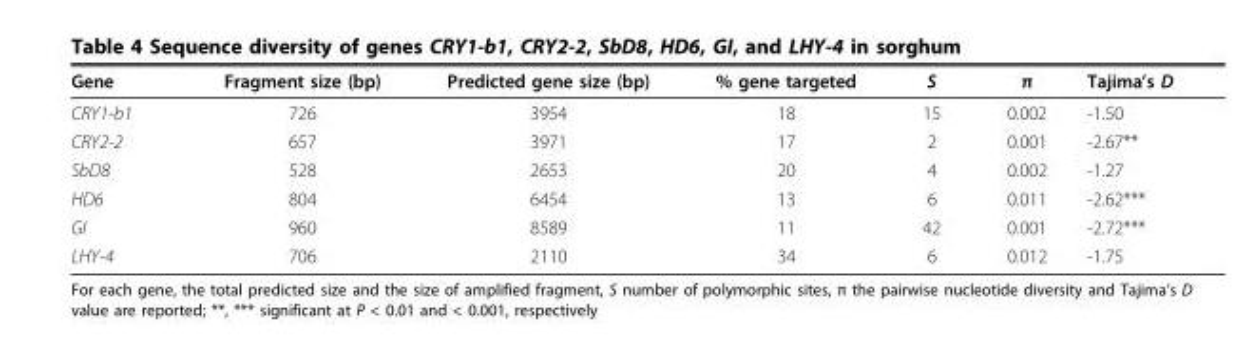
<table><tbody><tr><td>Gene</td><td>Fragment size (bp)</td><td>Predicted gene size (bp)</td><td>% gene targeted</td><td>S</td><td>π</td><td>Tajima’s D</td></tr><tr><td>CRY1-b1</td><td>726</td><td>3954</td><td>18</td><td>15</td><td>0.002</td><td>-1.50</td></tr><tr><td>CRY2-2</td><td>657</td><td>3971</td><td>17</td><td>2</td><td>0.001</td><td>-2.67**</td></tr><tr><td>SbD8</td><td>528</td><td>2653</td><td>20</td><td>4</td><td>0.002</td><td>-1.27</td></tr><tr><td>HD6</td><td>804</td><td>6454</td><td>13</td><td>6</td><td>0.011</td><td>-2.62***</td></tr><tr><td>GI</td><td>960</td><td>8589</td><td>11</td><td>42</td><td>0.001</td><td>-2.72***</td></tr><tr><td>LHY-4</td><td>706</td><td>2110</td><td>34</td><td>6</td><td>0.012</td><td>-1.75</td></tr></tbody></table>